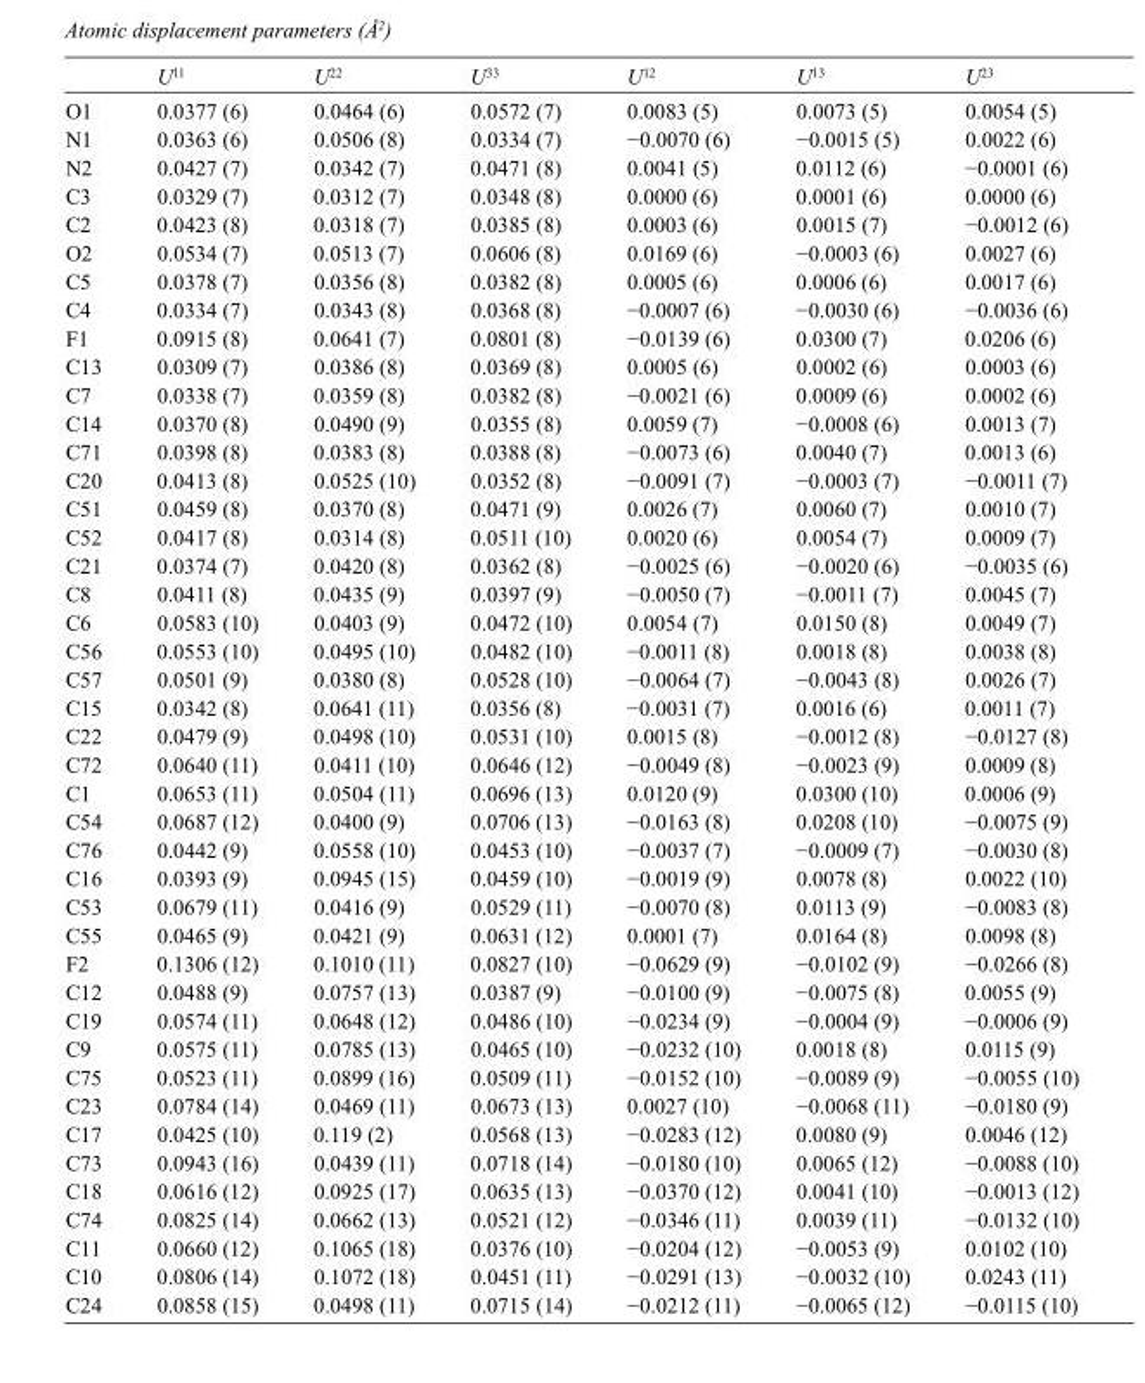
<table><thead><tr><td></td><td>U<sup>11</sup></td><td>U<sup>22</sup></td><td>U<sup>33</sup></td><td>U<sup>12</sup></td><td>U<sup>13</sup></td><td>U<sup>23</sup></td></tr></thead><tbody><tr><td>O1</td><td>0.0377 (6)</td><td>0.0464 (6)</td><td>0.0572 (7)</td><td>0.0083 (5)</td><td>0.0073 (5)</td><td>0.0054 (5)</td></tr><tr><td>N1</td><td>0.0363 (6)</td><td>0.0506 (8)</td><td>0.0334 (7)</td><td>−0.0070 (6)</td><td>−0.0015 (5)</td><td>0.0022 (6)</td></tr><tr><td>N2</td><td>0.0427 (7)</td><td>0.0342 (7)</td><td>0.0471 (8)</td><td>0.0041 (5)</td><td>0.0112 (6)</td><td>−0.0001 (6)</td></tr><tr><td>C3</td><td>0.0329 (7)</td><td>0.0312 (7)</td><td>0.0348 (8)</td><td>0.0000 (6)</td><td>0.0001 (6)</td><td>0.0000 (6)</td></tr><tr><td>C2</td><td>0.0423 (8)</td><td>0.0318 (7)</td><td>0.0385 (8)</td><td>0.0003 (6)</td><td>0.0015 (7)</td><td>−0.0012 (6)</td></tr><tr><td>O2</td><td>0.0534 (7)</td><td>0.0513 (7)</td><td>0.0606 (8)</td><td>0.0169 (6)</td><td>−0.0003 (6)</td><td>0.0027 (6)</td></tr><tr><td>C5</td><td>0.0378 (7)</td><td>0.0356 (8)</td><td>0.0382 (8)</td><td>0.0005 (6)</td><td>0.0006 (6)</td><td>0.0017 (6)</td></tr><tr><td>C4</td><td>0.0334 (7)</td><td>0.0343 (8)</td><td>0.0368 (8)</td><td>−0.0007 (6)</td><td>−0.0030 (6)</td><td>−0.0036 (6)</td></tr><tr><td>F1</td><td>0.0915 (8)</td><td>0.0641 (7)</td><td>0.0801 (8)</td><td>−0.0139 (6)</td><td>0.0300 (7)</td><td>0.0206 (6)</td></tr><tr><td>C13</td><td>0.0309 (7)</td><td>0.0386 (8)</td><td>0.0369 (8)</td><td>0.0005 (6)</td><td>0.0002 (6)</td><td>0.0003 (6)</td></tr><tr><td>C7</td><td>0.0338 (7)</td><td>0.0359 (8)</td><td>0.0382 (8)</td><td>−0.0021 (6)</td><td>0.0009 (6)</td><td>0.0002 (6)</td></tr><tr><td>C14</td><td>0.0370 (8)</td><td>0.0490 (9)</td><td>0.0355 (8)</td><td>0.0059 (7)</td><td>−0.0008 (6)</td><td>0.0013 (7)</td></tr><tr><td>C71</td><td>0.0398 (8)</td><td>0.0383 (8)</td><td>0.0388 (8)</td><td>−0.0073 (6)</td><td>0.0040 (7)</td><td>0.0013 (6)</td></tr><tr><td>C20</td><td>0.0413 (8)</td><td>0.0525 (10)</td><td>0.0352 (8)</td><td>−0.0091 (7)</td><td>−0.0003 (7)</td><td>−0.0011 (7)</td></tr><tr><td>C51</td><td>0.0459 (8)</td><td>0.0370 (8)</td><td>0.0471 (9)</td><td>0.0026 (7)</td><td>0.0060 (7)</td><td>0.0010 (7)</td></tr><tr><td>C52</td><td>0.0417 (8)</td><td>0.0314 (8)</td><td>0.0511 (10)</td><td>0.0020 (6)</td><td>0.0054 (7)</td><td>0.0009 (7)</td></tr><tr><td>C21</td><td>0.0374 (7)</td><td>0.0420 (8)</td><td>0.0362 (8)</td><td>−0.0025 (6)</td><td>−0.0020 (6)</td><td>−0.0035 (6)</td></tr><tr><td>C8</td><td>0.0411 (8)</td><td>0.0435 (9)</td><td>0.0397 (9)</td><td>−0.0050 (7)</td><td>−0.0011 (7)</td><td>0.0045 (7)</td></tr><tr><td>C6</td><td>0.0583 (10)</td><td>0.0403 (9)</td><td>0.0472 (10)</td><td>0.0054 (7)</td><td>0.0150 (8)</td><td>0.0049 (7)</td></tr><tr><td>C56</td><td>0.0553 (10)</td><td>0.0495 (10)</td><td>0.0482 (10)</td><td>−0.0011 (8)</td><td>0.0018 (8)</td><td>0.0038 (8)</td></tr><tr><td>C57</td><td>0.0501 (9)</td><td>0.0380 (8)</td><td>0.0528 (10)</td><td>−0.0064 (7)</td><td>−0.0043 (8)</td><td>0.0026 (7)</td></tr><tr><td>C15</td><td>0.0342 (8)</td><td>0.0641 (11)</td><td>0.0356 (8)</td><td>−0.0031 (7)</td><td>0.0016 (6)</td><td>0.0011 (7)</td></tr><tr><td>C22</td><td>0.0479 (9)</td><td>0.0498 (10)</td><td>0.0531 (10)</td><td>0.0015 (8)</td><td>−0.0012 (8)</td><td>−0.0127 (8)</td></tr><tr><td>C72</td><td>0.0640 (11)</td><td>0.0411 (10)</td><td>0.0646 (12)</td><td>−0.0049 (8)</td><td>−0.0023 (9)</td><td>0.0009 (8)</td></tr><tr><td>C1</td><td>0.0653 (11)</td><td>0.0504 (11)</td><td>0.0696 (13)</td><td>0.0120 (9)</td><td>0.0300 (10)</td><td>0.0006 (9)</td></tr><tr><td>C54</td><td>0.0687 (12)</td><td>0.0400 (9)</td><td>0.0706 (13)</td><td>−0.0163 (8)</td><td>0.0208 (10)</td><td>−0.0075 (9)</td></tr><tr><td>C76</td><td>0.0442 (9)</td><td>0.0558 (10)</td><td>0.0453 (10)</td><td>−0.0037 (7)</td><td>−0.0009 (7)</td><td>−0.0030 (8)</td></tr><tr><td>C16</td><td>0.0393 (9)</td><td>0.0945 (15)</td><td>0.0459 (10)</td><td>−0.0019 (9)</td><td>0.0078 (8)</td><td>0.0022 (10)</td></tr><tr><td>C53</td><td>0.0679 (11)</td><td>0.0416 (9)</td><td>0.0529 (11)</td><td>−0.0070 (8)</td><td>0.0113 (9)</td><td>−0.0083 (8)</td></tr><tr><td>C55</td><td>0.0465 (9)</td><td>0.0421 (9)</td><td>0.0631 (12)</td><td>0.0001 (7)</td><td>0.0164 (8)</td><td>0.0098 (8)</td></tr><tr><td>F2</td><td>0.1306 (12)</td><td>0.1010 (11)</td><td>0.0827 (10)</td><td>−0.0629 (9)</td><td>−0.0102 (9)</td><td>−0.0266 (8)</td></tr><tr><td>C12</td><td>0.0488 (9)</td><td>0.0757 (13)</td><td>0.0387 (9)</td><td>−0.0100 (9)</td><td>−0.0075 (8)</td><td>0.0055 (9)</td></tr><tr><td>C19</td><td>0.0574 (11)</td><td>0.0648 (12)</td><td>0.0486 (10)</td><td>−0.0234 (9)</td><td>−0.0004 (9)</td><td>−0.0006 (9)</td></tr><tr><td>C9</td><td>0.0575 (11)</td><td>0.0785 (13)</td><td>0.0465 (10)</td><td>−0.0232 (10)</td><td>0.0018 (8)</td><td>0.0115 (9)</td></tr><tr><td>C75</td><td>0.0523 (11)</td><td>0.0899 (16)</td><td>0.0509 (11)</td><td>−0.0152 (10)</td><td>−0.0089 (9)</td><td>−0.0055 (10)</td></tr><tr><td>C23</td><td>0.0784 (14)</td><td>0.0469 (11)</td><td>0.0673 (13)</td><td>0.0027 (10)</td><td>−0.0068 (11)</td><td>−0.0180 (9)</td></tr><tr><td>C17</td><td>0.0425 (10)</td><td>0.119 (2)</td><td>0.0568 (13)</td><td>−0.0283 (12)</td><td>0.0080 (9)</td><td>0.0046 (12)</td></tr><tr><td>C73</td><td>0.0943 (16)</td><td>0.0439 (11)</td><td>0.0718 (14)</td><td>−0.0180 (10)</td><td>0.0065 (12)</td><td>−0.0088 (10)</td></tr><tr><td>C18</td><td>0.0616 (12)</td><td>0.0925 (17)</td><td>0.0635 (13)</td><td>−0.0370 (12)</td><td>0.0041 (10)</td><td>−0.0013 (12)</td></tr><tr><td>C74</td><td>0.0825 (14)</td><td>0.0662 (13)</td><td>0.0521 (12)</td><td>−0.0346 (11)</td><td>0.0039 (11)</td><td>−0.0132 (10)</td></tr><tr><td>C11</td><td>0.0660 (12)</td><td>0.1065 (18)</td><td>0.0376 (10)</td><td>−0.0204 (12)</td><td>−0.0053 (9)</td><td>0.0102 (10)</td></tr><tr><td>C10</td><td>0.0806 (14)</td><td>0.1072 (18)</td><td>0.0451 (11)</td><td>−0.0291 (13)</td><td>−0.0032 (10)</td><td>0.0243 (11)</td></tr><tr><td>C24</td><td>0.0858 (15)</td><td>0.0498 (11)</td><td>0.0715 (14)</td><td>−0.0212 (11)</td><td>−0.0065 (12)</td><td>−0.0115 (10)</td></tr></tbody></table>